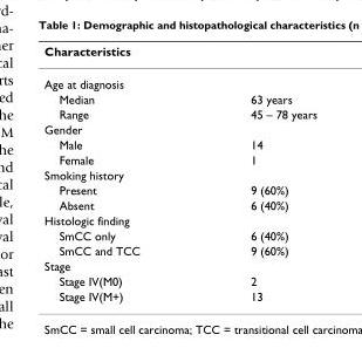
<table><thead><tr><td>Characteristics</td><td></td></tr></thead><tbody><tr><td colspan="2">Age at diagnosis</td></tr><tr><td>Median</td><td>63 years</td></tr><tr><td>Range</td><td>45 – 78 years</td></tr><tr><td colspan="2">Gender</td></tr><tr><td>Male</td><td>14</td></tr><tr><td>Female</td><td>1</td></tr><tr><td colspan="2">Smoking history</td></tr><tr><td>Present</td><td>9 (60%)</td></tr><tr><td>Absent</td><td>6 (40%)</td></tr><tr><td colspan="2">Histologic finding</td></tr><tr><td>SmCC only</td><td>6 (40%)</td></tr><tr><td>SmCC and TCC</td><td>9 (60%)</td></tr><tr><td colspan="2">Stage</td></tr><tr><td>Stage IV(M0)</td><td>2</td></tr><tr><td>Stage IV(M+)</td><td>13</td></tr></tbody></table>